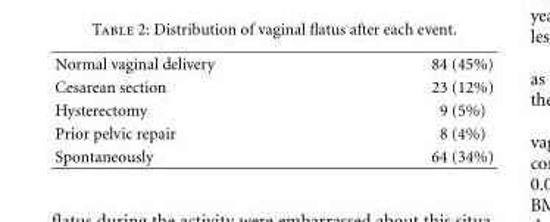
<table><tbody><tr><td>Normal vaginal delivery</td><td>84 (45%)</td></tr><tr><td>Cesarean section</td><td>23 (12%)</td></tr><tr><td>Hysterectomy</td><td>9 (5%)</td></tr><tr><td>Prior pelvic repair</td><td>8 (4%)</td></tr><tr><td>Spontaneously</td><td>64 (34%)</td></tr></tbody></table>